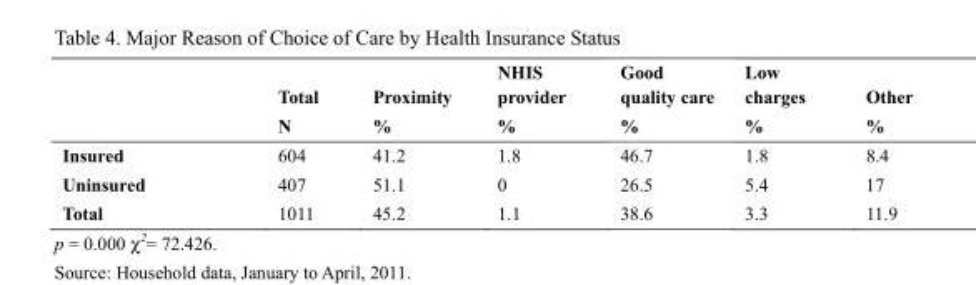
<table><thead><tr><td></td><td>Total N</td><td>Proximity %</td><td>NHIS provider %</td><td>Good quality care %</td><td>Low charges %</td><td>Other %</td></tr></thead><tbody><tr><td>Insured</td><td>604</td><td>41.2</td><td>1.8</td><td>46.7</td><td>1.8</td><td>8.4</td></tr><tr><td>Uninsured</td><td>407</td><td>51.1</td><td>0</td><td>26.5</td><td>5.4</td><td>17</td></tr><tr><td>Total</td><td>1011</td><td>45.2</td><td>1.1</td><td>38.6</td><td>3.3</td><td>11.9</td></tr></tbody></table>